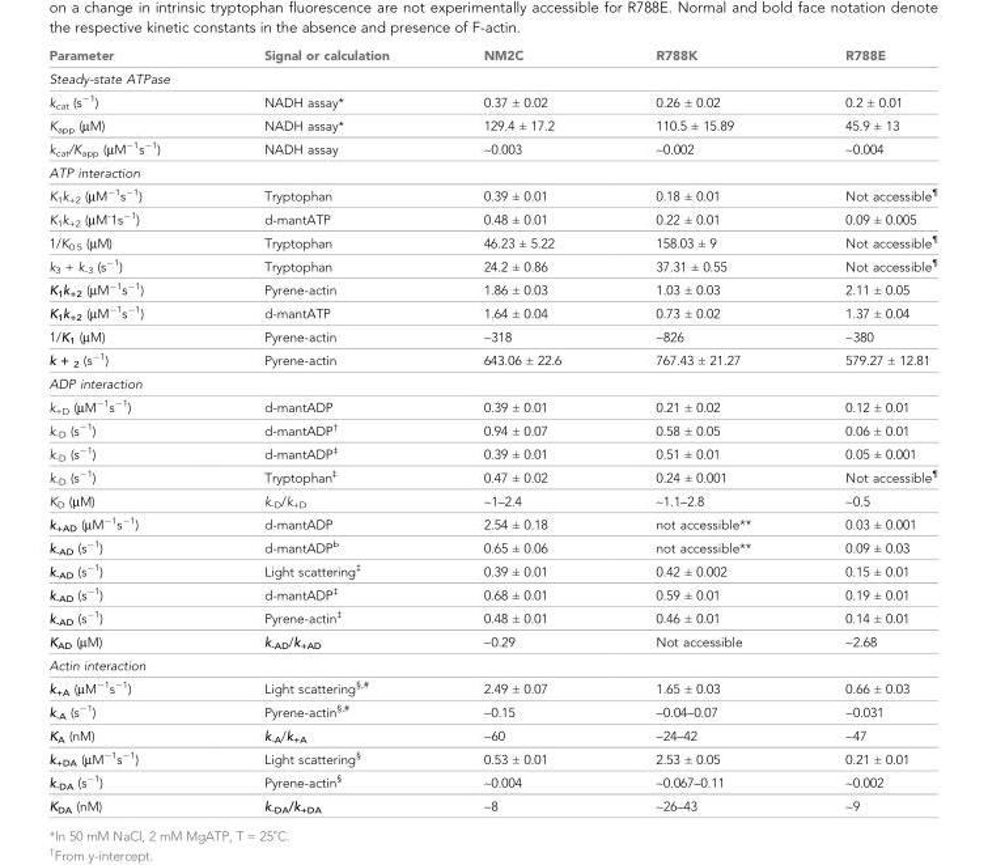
<table><thead><tr><td>Parameter</td><td>Signal or calculation</td><td>NM2C</td><td>R788K</td><td>R788E</td></tr></thead><tbody><tr><td colspan="5">Steady-state ATPase</td></tr><tr><td>k<sub>cat</sub> (s<sup>−1</sup>)</td><td>NADH assay*</td><td>0.37 ± 0.02</td><td>0.26 ± 0.02</td><td>0.2 ± 0.01</td></tr><tr><td>K<sub>app</sub> (µM)</td><td>NADH assay*</td><td>129.4 ± 17.2</td><td>110.5 ± 15.89</td><td>45.9 ± 13</td></tr><tr><td>k<sub>cat</sub>/K<sub>app</sub> (µM<sup>−1</sup>s<sup>−1</sup>)</td><td>NADH assay</td><td>~0.003</td><td>~0.002</td><td>~0.004</td></tr><tr><td colspan="5">ATP interaction</td></tr><tr><td>K<sub>1</sub>k<sub>+2</sub> (µM<sup>−1</sup>s<sup>−1</sup>)</td><td>Tryptophan</td><td>0.39 ± 0.01</td><td>0.18 ± 0.01</td><td>Not accessible<sup>¶</sup></td></tr><tr><td>K<sub>1</sub>k<sub>+2</sub> (µM<sup>-</sup>1s<sup>−1</sup>)</td><td>d-mantATP</td><td>0.48 ± 0.01</td><td>0.22 ± 0.01</td><td>0.09 ± 0.005</td></tr><tr><td>1/K<sub>0.5</sub> (µM)</td><td>Tryptophan</td><td>46.23 ± 5.22</td><td>158.03 ± 9</td><td>Not accessible<sup>¶</sup></td></tr><tr><td>k<sub>3</sub> + k<sub>-3</sub> (s<sup>−1</sup>)</td><td>Tryptophan</td><td>24.2 ± 0.86</td><td>37.31 ± 0.55</td><td>Not accessible<sup>¶</sup></td></tr><tr><td>K<sub>1</sub>k<sub>+2</sub> (µM<sup>−1</sup>s<sup>−1</sup>)</td><td>Pyrene-actin</td><td>1.86 ± 0.03</td><td>1.03 ± 0.03</td><td>2.11 ± 0.05</td></tr><tr><td>K<sub>1</sub>k<sub>+2</sub> (µM<sup>−1</sup>s<sup>−1</sup>)</td><td>d-mantATP</td><td>1.64 ± 0.04</td><td>0.73 ± 0.02</td><td>1.37 ± 0.04</td></tr><tr><td>1/K<sub>1</sub> (µM)</td><td>Pyrene-actin</td><td>~318</td><td>~826</td><td>~380</td></tr><tr><td>k + <sub>2</sub> (s<sup>−1</sup>)</td><td>Pyrene-actin</td><td>643.06 ± 22.6</td><td>767.43 ± 21.27</td><td>579.27 ± 12.81</td></tr><tr><td colspan="5">ADP interaction</td></tr><tr><td>k<sub>+D</sub> (µM<sup>−1</sup>s<sup>−1</sup>)</td><td>d-mantADP</td><td>0.39 ± 0.01</td><td>0.21 ± 0.02</td><td>0.12 ± 0.01</td></tr><tr><td>k<sub>-D</sub> (s<sup>−1</sup>)</td><td>d-mantADP<sup>†</sup></td><td>0.94 ± 0.07</td><td>0.58 ± 0.05</td><td>0.06 ± 0.01</td></tr><tr><td>k<sub>-D</sub> (s<sup>−1</sup>)</td><td>d-mantADP<sup>‡</sup></td><td>0.39 ± 0.01</td><td>0.51 ± 0.01</td><td>0.05 ± 0.001</td></tr><tr><td>k<sub>-D</sub> (s<sup>−1</sup>)</td><td>Tryptophan<sup>‡</sup></td><td>0.47 ± 0.02</td><td>0.24 ± 0.001</td><td>Not accessible<sup>¶</sup></td></tr><tr><td>K<sub>D</sub> (µM)</td><td>k<sub>-D</sub>/k<sub>+D</sub></td><td>~1–2.4</td><td>~1.1–2.8</td><td>~0.5</td></tr><tr><td>k<sub>+AD</sub> (µM<sup>−1</sup>s<sup>−1</sup>)</td><td>d-mantADP</td><td>2.54 ± 0.18</td><td>not accessible**</td><td>0.03 ± 0.001</td></tr><tr><td>k<sub>-AD</sub> (s<sup>−1</sup>)</td><td>d-mantADP<sup>b</sup></td><td>0.65 ± 0.06</td><td>not accessible**</td><td>0.09 ± 0.03</td></tr><tr><td>k<sub>-AD</sub> (s<sup>−1</sup>)</td><td>Light scattering<sup>‡</sup></td><td>0.39 ± 0.01</td><td>0.42 ± 0.002</td><td>0.15 ± 0.01</td></tr><tr><td>k<sub>-AD</sub> (s<sup>−1</sup>)</td><td>d-mantADP<sup>‡</sup></td><td>0.68 ± 0.01</td><td>0.59 ± 0.01</td><td>0.19 ± 0.01</td></tr><tr><td>k<sub>-AD</sub> (s<sup>−1</sup>)</td><td>Pyrene-actin<sup>‡</sup></td><td>0.48 ± 0.01</td><td>0.46 ± 0.01</td><td>0.14 ± 0.01</td></tr><tr><td>K<sub>AD</sub> (µM)</td><td>k<sub>-AD</sub>/k<sub>+AD</sub></td><td>~0.29</td><td>Not accessible</td><td>~2.68</td></tr><tr><td colspan="5">Actin interaction</td></tr><tr><td>k<sub>+A</sub> (µM<sup>−1</sup>s<sup>−1</sup>)</td><td>Light scattering<sup>§,#</sup></td><td>2.49 ± 0.07</td><td>1.65 ± 0.03</td><td>0.66 ± 0.03</td></tr><tr><td>k<sub>-A</sub> (s<sup>−1</sup>)</td><td>Pyrene-actin<sup>§,#</sup></td><td>~0.15</td><td>~0.04–0.07</td><td>~0.031</td></tr><tr><td>K<sub>A</sub> (nM)</td><td>k<sub>-A</sub>/k<sub>+A</sub></td><td>~60</td><td>~24–42</td><td>~47</td></tr><tr><td>k<sub>+DA</sub> (µM<sup>−1</sup>s<sup>−1</sup>)</td><td>Light scattering<sup>§</sup></td><td>0.53 ± 0.01</td><td>2.53 ± 0.05</td><td>0.21 ± 0.01</td></tr><tr><td>k<sub>-DA</sub> (s<sup>−1</sup>)</td><td>Pyrene-actin<sup>§</sup></td><td>~0.004</td><td>~0.067–0.11</td><td>~0.002</td></tr><tr><td>K<sub>DA</sub> (nM)</td><td>k<sub>-DA</sub>/k<sub>+DA</sub></td><td>~8</td><td>~26–43</td><td>~9</td></tr></tbody></table>